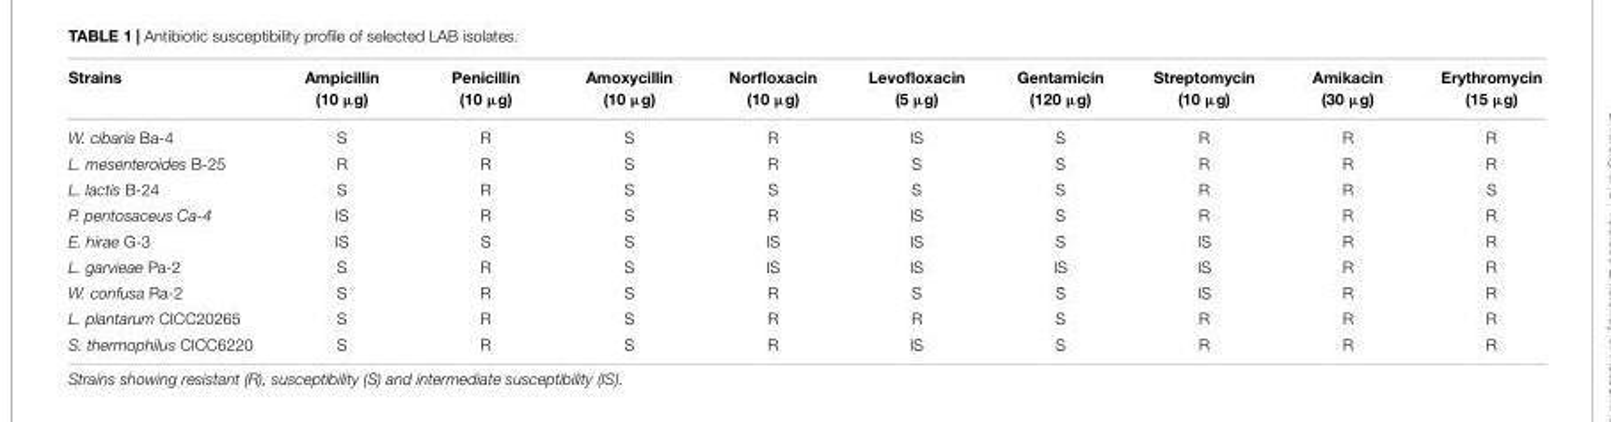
<table><thead><tr><td>Strains</td><td>Ampicillin (10 µg)</td><td>Penicillin (10 µg)</td><td>Amoxycillin (10 µg)</td><td>Norfloxacin (10 µg)</td><td>Levofloxacin (5 µg)</td><td>Gentamicin (120 µg)</td><td>Streptomycin (10 µg)</td><td>Amikacin (30 µg)</td><td>Erythromycin (15 µg)</td></tr></thead><tbody><tr><td>W. cibaria Ba-4</td><td>S</td><td>R</td><td>S</td><td>R</td><td>IS</td><td>S</td><td>R</td><td>R</td><td>R</td></tr><tr><td>L. mesenteroides B-25</td><td>R</td><td>R</td><td>S</td><td>R</td><td>S</td><td>S</td><td>R</td><td>R</td><td>R</td></tr><tr><td>L. lactis B-24</td><td>S</td><td>R</td><td>S</td><td>S</td><td>S</td><td>S</td><td>R</td><td>R</td><td>S</td></tr><tr><td>P. pentosaceus Ca-4</td><td>IS</td><td>R</td><td>S</td><td>R</td><td>IS</td><td>S</td><td>R</td><td>R</td><td>R</td></tr><tr><td>E. hirae G-3</td><td>IS</td><td>S</td><td>S</td><td>IS</td><td>IS</td><td>S</td><td>IS</td><td>R</td><td>R</td></tr><tr><td>L. garvieae Pa-2</td><td>S</td><td>R</td><td>S</td><td>IS</td><td>IS</td><td>IS</td><td>IS</td><td>R</td><td>R</td></tr><tr><td>W. confusa Ra-2</td><td>S</td><td>R</td><td>S</td><td>R</td><td>S</td><td>S</td><td>IS</td><td>R</td><td>R</td></tr><tr><td>L. plantarum CICC20265</td><td>S</td><td>R</td><td>S</td><td>R</td><td>R</td><td>S</td><td>R</td><td>R</td><td>R</td></tr><tr><td>S. thermophilus CICC6220</td><td>S</td><td>R</td><td>S</td><td>R</td><td>IS</td><td>S</td><td>R</td><td>R</td><td>R</td></tr></tbody></table>